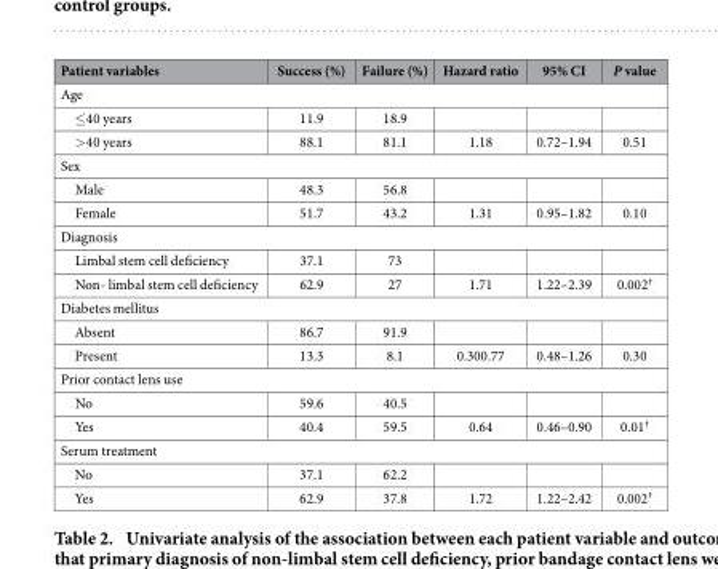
<table><thead><tr><td>Patient variables</td><td>Success (%)</td><td>Failure (%)</td><td>Hazard ratio</td><td>95% CI</td><td>P value</td></tr></thead><tbody><tr><td colspan="6">Age</td></tr><tr><td>≤ 40 years</td><td>11.9</td><td>18.9</td><td></td><td></td><td></td></tr><tr><td>&gt; 40 years</td><td>88.1</td><td>81.1</td><td>1.18</td><td>0.72–1.94</td><td>0.51</td></tr><tr><td colspan="6">Sex</td></tr><tr><td>Male</td><td>48.3</td><td>56.8</td><td></td><td></td><td></td></tr><tr><td>Female</td><td>51.7</td><td>43.2</td><td>1.31</td><td>0.95–1.82</td><td>0.10</td></tr><tr><td colspan="6">Diagnosis</td></tr><tr><td>Limbal stem cell deficiency</td><td>37.1</td><td>73</td><td></td><td></td><td></td></tr><tr><td>Non- limbal stem cell deficiency</td><td>62.9</td><td>27</td><td>1.71</td><td>1.22–2.39</td><td>0.002<sup>†</sup></td></tr><tr><td colspan="6">Diabetes mellitus</td></tr><tr><td>Absent</td><td>86.7</td><td>91.9</td><td></td><td></td><td></td></tr><tr><td>Present</td><td>13.3</td><td>8.1</td><td>0.300.77</td><td>0.48–1.26</td><td>0.30</td></tr><tr><td colspan="6">Prior contact lens use</td></tr><tr><td>No</td><td>59.6</td><td>40.5</td><td></td><td></td><td></td></tr><tr><td>Yes</td><td>40.4</td><td>59.5</td><td>0.64</td><td>0.46–0.90</td><td>0.01<sup>†</sup></td></tr><tr><td colspan="6">Serum treatment</td></tr><tr><td>No</td><td>37.1</td><td>62.2</td><td></td><td></td><td></td></tr><tr><td>Yes</td><td>62.9</td><td>37.8</td><td>1.72</td><td>1.22–2.42</td><td>0.002<sup>†</sup></td></tr></tbody></table>